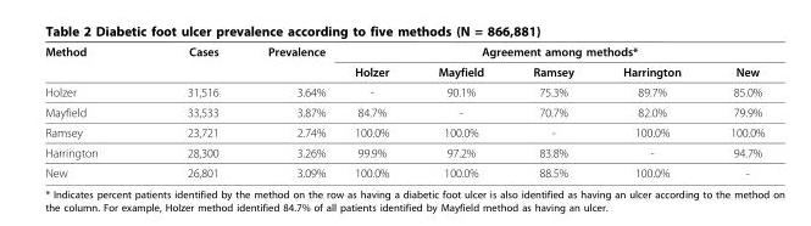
<table><thead><tr><td rowspan="2">Method</td><td rowspan="2">Cases</td><td rowspan="2">Prevalence</td><td colspan="5">Agreement among methods*</td></tr><tr><td>Holzer</td><td>Mayfield</td><td>Ramsey</td><td>Harrington</td><td>New</td></tr></thead><tbody><tr><td>Holzer</td><td>31,516</td><td>3.64%</td><td>-</td><td>90.1%</td><td>75.3%</td><td>89.7%</td><td>85.0%</td></tr><tr><td>Mayfield</td><td>33,533</td><td>3.87%</td><td>84.7%</td><td>-</td><td>70.7%</td><td>82.0%</td><td>79.9%</td></tr><tr><td>Ramsey</td><td>23,721</td><td>2.74%</td><td>100.0%</td><td>100.0%</td><td>-</td><td>100.0%</td><td>100.0%</td></tr><tr><td>Harrington</td><td>28,300</td><td>3.26%</td><td>99.9%</td><td>97.2%</td><td>83.8%</td><td>-</td><td>94.7%</td></tr><tr><td>New</td><td>26,801</td><td>3.09%</td><td>100.0%</td><td>100.0%</td><td>88.5%</td><td>100.0%</td><td>-</td></tr></tbody></table>